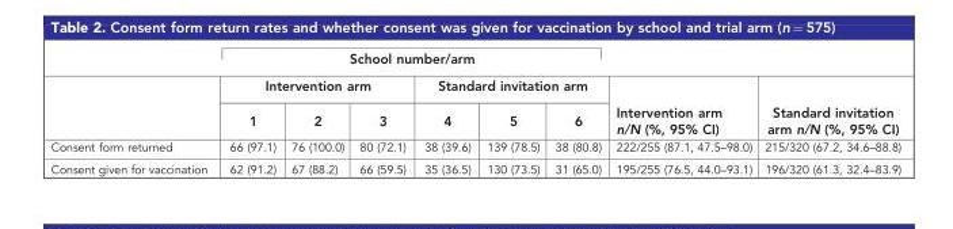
<table><thead><tr><td rowspan="3"></td><td colspan="6">School number/arm</td><td rowspan="3">Intervention arm n/N (%, 95% CI)</td><td rowspan="3">Standard invitation arm n/N (%, 95% CI)</td></tr><tr><td colspan="3">Intervention arm</td><td colspan="3">Standard invitation arm</td></tr><tr><td>1</td><td>2</td><td>3</td><td>4</td><td>5</td><td>6</td></tr></thead><tbody><tr><td>Consent form returned</td><td>66 (97.1)</td><td>76 (100.0)</td><td>80 (72.1)</td><td>38 (39.6)</td><td>139 (78.5)</td><td>38 (80.8)</td><td>222/255 (87.1, 47.5–98.0)</td><td>215/320 (67.2, 34.6–88.8)</td></tr><tr><td>Consent given for vaccination</td><td>62 (91.2)</td><td>67 (88.2)</td><td>66 (59.5)</td><td>35 (36.5)</td><td>130 (73.5)</td><td>31 (65.0)</td><td>195/255 (76.5, 44.0–93.1)</td><td>196/320 (61.3, 32.4–83.9)</td></tr></tbody></table>